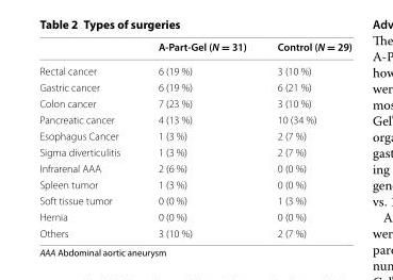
<table><thead><tr><td></td><td>A-Part-Gel (N = 31)</td><td>Control (N = 29)</td></tr></thead><tbody><tr><td>Rectal cancer</td><td>6 (19 %)</td><td>3 (10 %)</td></tr><tr><td>Gastric cancer</td><td>6 (19 %)</td><td>6 (21 %)</td></tr><tr><td>Colon cancer</td><td>7 (23 %)</td><td>3 (10 %)</td></tr><tr><td>Pancreatic cancer</td><td>4 (13 %)</td><td>10 (34 %)</td></tr><tr><td>Esophagus Cancer</td><td>1 (3 %)</td><td>2 (7 %)</td></tr><tr><td>Sigma diverticulitis</td><td>1 (3 %)</td><td>2 (7 %)</td></tr><tr><td>Infrarenal AAA</td><td>2 (6 %)</td><td>0 (0 %)</td></tr><tr><td>Spleen tumor</td><td>1 (3 %)</td><td>0 (0 %)</td></tr><tr><td>Soft tissue tumor</td><td>0 (0 %)</td><td>1 (3 %)</td></tr><tr><td>Hernia</td><td>0 (0 %)</td><td>0 (0 %)</td></tr><tr><td>Others</td><td>3 (10 %)</td><td>2 (7 %)</td></tr></tbody></table>